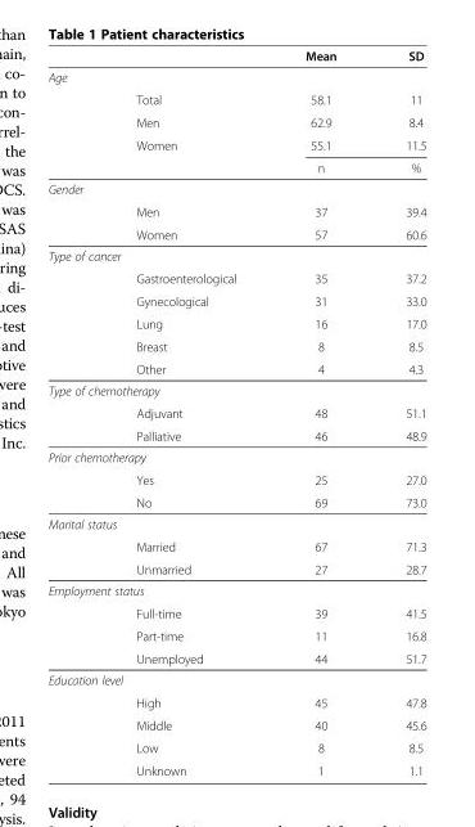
<table><thead><tr><td></td><td></td><td>Mean</td><td>SD</td></tr></thead><tbody><tr><td colspan="4">Age</td></tr><tr><td></td><td>Total</td><td>58.1</td><td>11</td></tr><tr><td></td><td>Men</td><td>62.9</td><td>8.4</td></tr><tr><td></td><td>Women</td><td>55.1</td><td>11.5</td></tr><tr><td></td><td></td><td>n</td><td>%</td></tr><tr><td colspan="4">Gender</td></tr><tr><td></td><td>Men</td><td>37</td><td>39.4</td></tr><tr><td></td><td>Women</td><td>57</td><td>60.6</td></tr><tr><td colspan="4">Type of cancer</td></tr><tr><td></td><td>Gastroenterological</td><td>35</td><td>37.2</td></tr><tr><td></td><td>Gynecological</td><td>31</td><td>33.0</td></tr><tr><td></td><td>Lung</td><td>16</td><td>17.0</td></tr><tr><td></td><td>Breast</td><td>8</td><td>8.5</td></tr><tr><td></td><td>Other</td><td>4</td><td>4.3</td></tr><tr><td colspan="4">Type of chemotherapy</td></tr><tr><td></td><td>Adjuvant</td><td>48</td><td>51.1</td></tr><tr><td></td><td>Palliative</td><td>46</td><td>48.9</td></tr><tr><td colspan="4">Prior chemotherapy</td></tr><tr><td></td><td>Yes</td><td>25</td><td>27.0</td></tr><tr><td></td><td>No</td><td>69</td><td>73.0</td></tr><tr><td colspan="4">Marital status</td></tr><tr><td></td><td>Married</td><td>67</td><td>71.3</td></tr><tr><td></td><td>Unmarried</td><td>27</td><td>28.7</td></tr><tr><td colspan="4">Employment status</td></tr><tr><td></td><td>Full-time</td><td>39</td><td>41.5</td></tr><tr><td></td><td>Part-time</td><td>11</td><td>16.8</td></tr><tr><td></td><td>Unemployed</td><td>44</td><td>51.7</td></tr><tr><td colspan="4">Education level</td></tr><tr><td></td><td>High</td><td>45</td><td>47.8</td></tr><tr><td></td><td>Middle</td><td>40</td><td>45.6</td></tr><tr><td></td><td>Low</td><td>8</td><td>8.5</td></tr><tr><td></td><td>Unknown</td><td>1</td><td>1.1</td></tr></tbody></table>